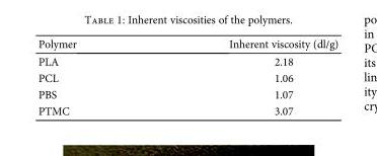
<table><thead><tr><td>Polymer</td><td>Inherent viscosity (dl/g)</td></tr></thead><tbody><tr><td>PLA</td><td>2.18</td></tr><tr><td>PCL</td><td>1.06</td></tr><tr><td>PBS</td><td>1.07</td></tr><tr><td>PTMC</td><td>3.07</td></tr></tbody></table>